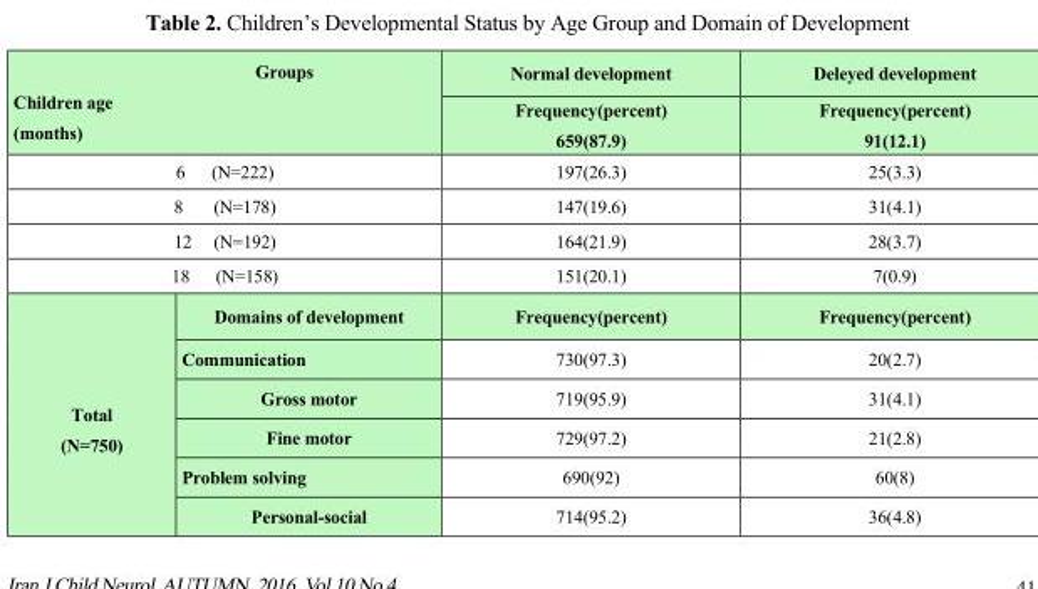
<table><thead><tr><td rowspan="2" colspan="2">Groups age</td><td rowspan="2">Normal development Frequency(percent) 659(87.9)</td><td rowspan="2">Deleyed development Frequency(percent) 91(12.1)</td></tr><tr></tr></thead><tbody><tr><td colspan="2">6 (N=222)</td><td>197(26.3)</td><td>25(3.3)</td></tr><tr><td colspan="2">8 (N=178)</td><td>147(19.6)</td><td>31(4.1)</td></tr><tr><td colspan="2">12 (N=192)</td><td>164(21.9)</td><td>28(3.7)</td></tr><tr><td colspan="2">18 (N=158)</td><td>151(20.1)</td><td>7(0.9)</td></tr><tr><td rowspan="6">Total (N=750)</td><td>Domains of development</td><td>Frequency(percent)</td><td>Frequency(percent)</td></tr><tr><td>Communication</td><td>730(97.3)</td><td>20(2.7)</td></tr><tr><td>Gross motor</td><td>719(95.9)</td><td>31(4.1)</td></tr><tr><td>Fine motor</td><td>729(97.2)</td><td>21(2.8)</td></tr><tr><td>Problem solving</td><td>690(92)</td><td>60(8)</td></tr><tr><td>Personal-social</td><td>714(95.2)</td><td>36(4.8)</td></tr></tbody></table>